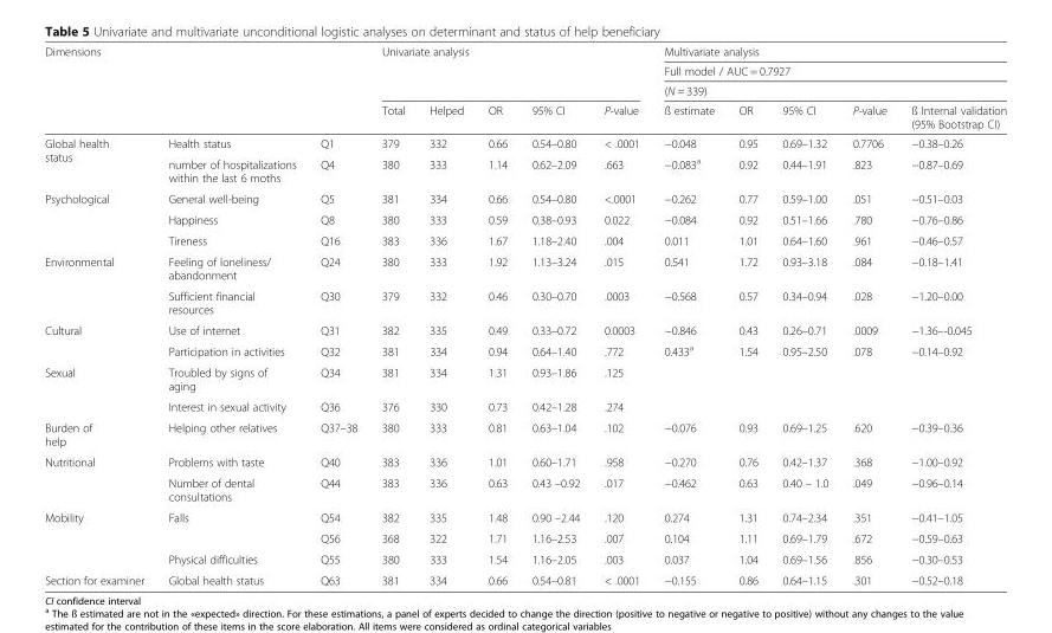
<table><thead><tr><td rowspan="4">Dimensions</td><td rowspan="4"></td><td rowspan="4"></td><td rowspan="3" colspan="5">Univariate analysis</td><td rowspan="3" colspan="5">Multivariate analysis Full model / AUC = 0.7927 (N = 339)</td></tr><tr></tr><tr></tr><tr><td>Total</td><td>Helped</td><td>OR</td><td>95% CI</td><td>P-value</td><td>ß estimate</td><td>OR</td><td>95% CI</td><td>P-value</td><td>ß Internal validation (95% Bootstrap CI)</td></tr></thead><tbody><tr><td rowspan="2">Global health status</td><td>Health status</td><td>Q1</td><td>379</td><td>332</td><td>0.66</td><td>0.54–0.80</td><td>&lt; .0001</td><td>−0.048</td><td>0.95</td><td>0.69–1.32</td><td>0.7706</td><td>−0.38–0.26</td></tr><tr><td>number of hospitalizations within the last 6 moths</td><td>Q4</td><td>380</td><td>333</td><td>1.14</td><td>0.62–2.09</td><td>.663</td><td>−0.083<sup>a</sup></td><td>0.92</td><td>0.44–1.91</td><td>.823</td><td>−0.87–0.69</td></tr><tr><td rowspan="3">Psychological</td><td>General well-being</td><td>Q5</td><td>381</td><td>334</td><td>0.66</td><td>0.54–0.80</td><td>&lt;.0001</td><td>−0.262</td><td>0.77</td><td>0.59–1.00</td><td>.051</td><td>−0.51–0.03</td></tr><tr><td>Happiness</td><td>Q8</td><td>380</td><td>333</td><td>0.59</td><td>0.38–0.93</td><td>0.022</td><td>−0.084</td><td>0.92</td><td>0.51–1.66</td><td>.780</td><td>−0.76–0.86</td></tr><tr><td>Tireness</td><td>Q16</td><td>383</td><td>336</td><td>1.67</td><td>1.18–2.40</td><td>.004</td><td>0.011</td><td>1.01</td><td>0.64–1.60</td><td>.961</td><td>−0.46–0.57</td></tr><tr><td rowspan="2">Environmental</td><td>Feeling of loneliness/ abandonment</td><td>Q24</td><td>380</td><td>333</td><td>1.92</td><td>1.13–3.24</td><td>.015</td><td>0.541</td><td>1.72</td><td>0.93–3.18</td><td>.084</td><td>−0.18–1.41</td></tr><tr><td>Sufficient financial resources</td><td>Q30</td><td>379</td><td>332</td><td>0.46</td><td>0.30–0.70</td><td>.0003</td><td>−0.568</td><td>0.57</td><td>0.34–0.94</td><td>.028</td><td>−1.20–0.00</td></tr><tr><td rowspan="2">Cultural</td><td>Use of internet</td><td>Q31</td><td>382</td><td>335</td><td>0.49</td><td>0.33–0.72</td><td>0.0003</td><td>−0.846</td><td>0.43</td><td>0.26–0.71</td><td>.0009</td><td>−1.36–-0.045</td></tr><tr><td>Participation in activities</td><td>Q32</td><td>381</td><td>334</td><td>0.94</td><td>0.64–1.40</td><td>.772</td><td>0.433<sup>a</sup></td><td>1.54</td><td>0.95–2.50</td><td>.078</td><td>−0.14–0.92</td></tr><tr><td rowspan="2">Sexual</td><td>Troubled by signs of aging</td><td>Q34</td><td>381</td><td>334</td><td>1.31</td><td>0.93–1.86</td><td>.125</td><td></td><td></td><td></td><td></td><td></td></tr><tr><td>Interest in sexual activity</td><td>Q36</td><td>376</td><td>330</td><td>0.73</td><td>0.42–1.28</td><td>.274</td><td></td><td></td><td></td><td></td><td></td></tr><tr><td>Burden of help</td><td>Helping other relatives</td><td>Q37–38</td><td>380</td><td>333</td><td>0.81</td><td>0.63–1.04</td><td>.102</td><td>−0.076</td><td>0.93</td><td>0.69–1.25</td><td>.620</td><td>−0.39–0.36</td></tr><tr><td rowspan="2">Nutritional</td><td>Problems with taste</td><td>Q40</td><td>383</td><td>336</td><td>1.01</td><td>0.60–1.71</td><td>.958</td><td>−0.270</td><td>0.76</td><td>0.42–1.37</td><td>.368</td><td>−1.00–0.92</td></tr><tr><td>Number of dental consultations</td><td>Q44</td><td>383</td><td>336</td><td>0.63</td><td>0.43 –0.92</td><td>.017</td><td>−0.462</td><td>0.63</td><td>0.40 – 1.0</td><td>.049</td><td>−0.96–0.14</td></tr><tr><td rowspan="3">Mobility</td><td>Falls</td><td>Q54</td><td>382</td><td>335</td><td>1.48</td><td>0.90 –2.44</td><td>.120</td><td>0.274</td><td>1.31</td><td>0.74–2.34</td><td>.351</td><td>−0.41–1.05</td></tr><tr><td></td><td>Q56</td><td>368</td><td>322</td><td>1.71</td><td>1.16–2.53</td><td>.007</td><td>0.104</td><td>1.11</td><td>0.69–1.79</td><td>.672</td><td>−0.59–0.63</td></tr><tr><td>Physical difficulties</td><td>Q55</td><td>380</td><td>333</td><td>1.54</td><td>1.16–2.05</td><td>.003</td><td>0.037</td><td>1.04</td><td>0.69–1.56</td><td>.856</td><td>−0.30–0.53</td></tr><tr><td>Section for examiner</td><td>Global health status</td><td>Q63</td><td>381</td><td>334</td><td>0.66</td><td>0.54–0.81</td><td>&lt; .0001</td><td>−0.155</td><td>0.86</td><td>0.64–1.15</td><td>.301</td><td>−0.52–0.18</td></tr></tbody></table>